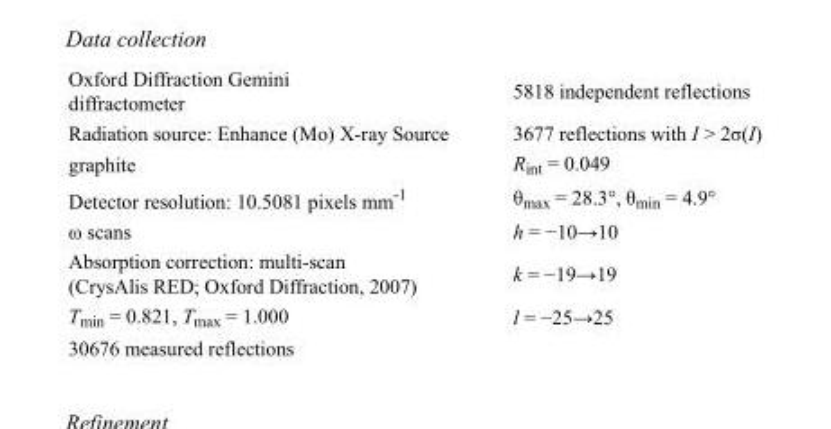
<table><tbody><tr><td>Oxford Diffraction Gemini diffractometer</td><td>5818 independent reflections</td></tr><tr><td>Radiation source: Enhance (Mo) X-ray Source</td><td>3677 reflections with I &gt; 2σ(I)</td></tr><tr><td>graphite</td><td>R<sub>int</sub> = 0.049</td></tr><tr><td>Detector resolution: 10.5081 pixels mm<sup>-1</sup></td><td>θ<sub>max</sub> = 28.3°, θ<sub>min</sub> = 4.9°</td></tr><tr><td>ω scans</td><td>h = −10→10</td></tr><tr><td>Absorption correction: multi-scan (CrysAlis RED; Oxford Diffraction, 2007)</td><td>k = −19→19</td></tr><tr><td>T<sub>min</sub> = 0.821, T<sub>max</sub> = 1.000</td><td>l = −25→25</td></tr><tr><td>30676 measured reflections</td><td></td></tr></tbody></table>